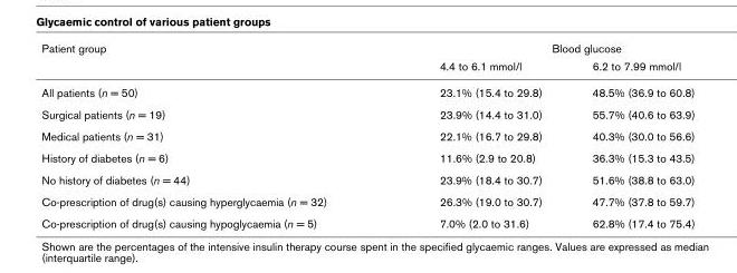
<table><thead><tr><td rowspan="2">Patient group</td><td colspan="2">Blood glucose</td></tr><tr><td>4.4 to 6.1 mmol/l</td><td>6.2 to 7.99 mmol/l</td></tr></thead><tbody><tr><td>All patients (n = 50)</td><td>23.1% (15.4 to 29.8)</td><td>48.5% (36.9 to 60.8)</td></tr><tr><td>Surgical patients (n = 19)</td><td>23.9% (14.4 to 31.0)</td><td>55.7% (40.6 to 63.9)</td></tr><tr><td>Medical patients (n = 31)</td><td>22.1% (16.7 to 29.8)</td><td>40.3% (30.0 to 56.6)</td></tr><tr><td>History of diabetes (n = 6)</td><td>11.6% (2.9 to 20.8)</td><td>36.3% (15.3 to 43.5)</td></tr><tr><td>No history of diabetes (n = 44)</td><td>23.9% (18.4 to 30.7)</td><td>51.6% (38.8 to 63.0)</td></tr><tr><td>Co-prescription of drug(s) causing hyperglycaemia (n = 32)</td><td>26.3% (19.0 to 30.7)</td><td>47.7% (37.8 to 59.7)</td></tr><tr><td>Co-prescription of drug(s) causing hypoglycaemia (n = 5)</td><td>7.0% (2.0 to 31.6)</td><td>62.8% (17.4 to 75.4)</td></tr></tbody></table>